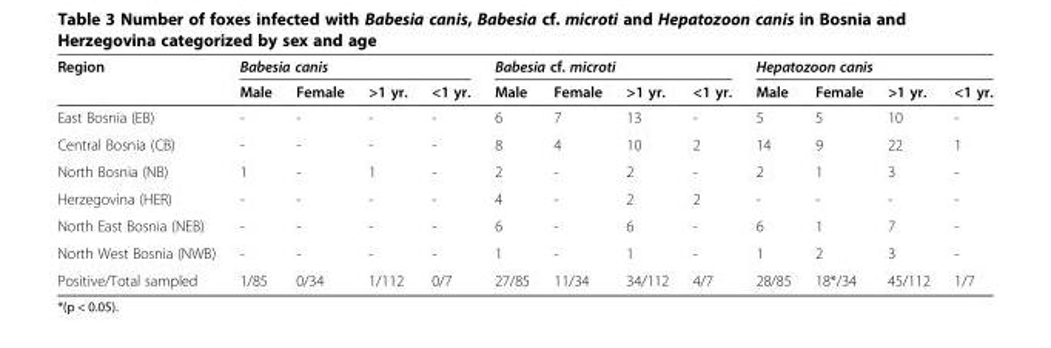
<table><thead><tr><td rowspan="2">Region</td><td colspan="4">Babesia canis</td><td colspan="4">Babesia cf. microti</td><td colspan="4">Hepatozoon canis</td></tr><tr><td>Male</td><td>Female</td><td>&gt;1 yr.</td><td>&lt;1 yr.</td><td>Male</td><td>Female</td><td>&gt;1 yr.</td><td>&lt;1 yr.</td><td>Male</td><td>Female</td><td>&gt;1 yr.</td><td>&lt;1 yr.</td></tr></thead><tbody><tr><td>East Bosnia (EB)</td><td>-</td><td>-</td><td>-</td><td>-</td><td>6</td><td>7</td><td>13</td><td>-</td><td>5</td><td>5</td><td>10</td><td>-</td></tr><tr><td>Central Bosnia (CB)</td><td>-</td><td>-</td><td>-</td><td>-</td><td>8</td><td>4</td><td>10</td><td>2</td><td>14</td><td>9</td><td>22</td><td>1</td></tr><tr><td>North Bosnia (NB)</td><td>1</td><td>-</td><td>1</td><td>-</td><td>2</td><td>-</td><td>2</td><td>-</td><td>2</td><td>1</td><td>3</td><td>-</td></tr><tr><td>Herzegovina (HER)</td><td>-</td><td>-</td><td>-</td><td>-</td><td>4</td><td>-</td><td>2</td><td>2</td><td>-</td><td>-</td><td>-</td><td>-</td></tr><tr><td>North East Bosnia (NEB)</td><td>-</td><td>-</td><td>-</td><td>-</td><td>6</td><td>-</td><td>6</td><td>-</td><td>6</td><td>1</td><td>7</td><td>-</td></tr><tr><td>North West Bosnia (NWB)</td><td>-</td><td>-</td><td>-</td><td>-</td><td>1</td><td>-</td><td>1</td><td>-</td><td>1</td><td>2</td><td>3</td><td>-</td></tr><tr><td>Positive/Total sampled</td><td>1/85</td><td>0/34</td><td>1/112</td><td>0/7</td><td>27/85</td><td>11/34</td><td>34/112</td><td>4/7</td><td>28/85</td><td>18*/34</td><td>45/112</td><td>1/7</td></tr></tbody></table>